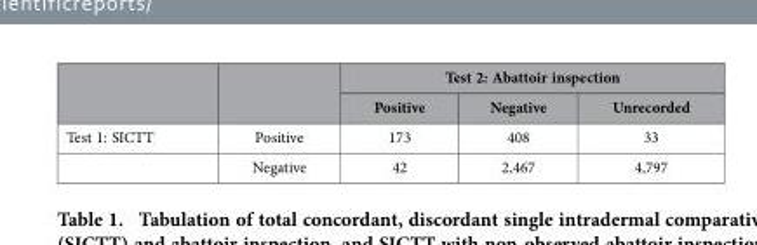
<table><thead><tr><td rowspan="2"></td><td rowspan="2"></td><td colspan="3">Test 2: Abattoir inspection</td></tr><tr><td>Positive</td><td>Negative</td><td>Unrecorded</td></tr></thead><tbody><tr><td rowspan="2">Test 1: SICTT</td><td>Positive</td><td>173</td><td>408</td><td>33</td></tr><tr><td>Negative</td><td>42</td><td>2,467</td><td>4,797</td></tr></tbody></table>